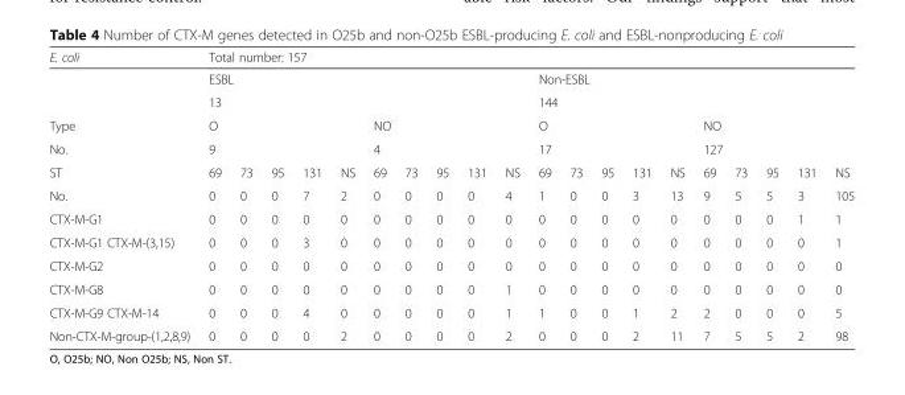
<table><thead><tr><td>E. coli</td><td colspan="10">Total number: 157</td><td></td><td></td><td></td><td></td><td></td><td></td><td></td><td></td><td></td><td></td></tr></thead><tbody><tr><td></td><td colspan="10">ESBL</td><td colspan="10">Non-ESBL</td></tr><tr><td></td><td colspan="10">13</td><td colspan="10">144</td></tr><tr><td>Type</td><td colspan="5">O</td><td colspan="5">NO</td><td colspan="5">O</td><td colspan="5">NO</td></tr><tr><td>No.</td><td colspan="5">9</td><td colspan="5">4</td><td colspan="5">17</td><td colspan="5">127</td></tr><tr><td>ST</td><td>69</td><td>73</td><td>95</td><td>131</td><td>NS</td><td>69</td><td>73</td><td>95</td><td>131</td><td>NS</td><td>69</td><td>73</td><td>95</td><td>131</td><td>NS</td><td>69</td><td>73</td><td>95</td><td>131</td><td>NS</td></tr><tr><td>No.</td><td>0</td><td>0</td><td>0</td><td>7</td><td>2</td><td>0</td><td>0</td><td>0</td><td>0</td><td>4</td><td>1</td><td>0</td><td>0</td><td>3</td><td>13</td><td>9</td><td>5</td><td>5</td><td>3</td><td>105</td></tr><tr><td>CTX-M-G1</td><td>0</td><td>0</td><td>0</td><td>0</td><td>0</td><td>0</td><td>0</td><td>0</td><td>0</td><td>0</td><td>0</td><td>0</td><td>0</td><td>0</td><td>0</td><td>0</td><td>0</td><td>0</td><td>1</td><td>1</td></tr><tr><td>CTX-M-G1 CTX-M-(3,15)</td><td>0</td><td>0</td><td>0</td><td>3</td><td>0</td><td>0</td><td>0</td><td>0</td><td>0</td><td>0</td><td>0</td><td>0</td><td>0</td><td>0</td><td>0</td><td>0</td><td>0</td><td>0</td><td>0</td><td>1</td></tr><tr><td>CTX-M-G2</td><td>0</td><td>0</td><td>0</td><td>0</td><td>0</td><td>0</td><td>0</td><td>0</td><td>0</td><td>0</td><td>0</td><td>0</td><td>0</td><td>0</td><td>0</td><td>0</td><td>0</td><td>0</td><td>0</td><td>0</td></tr><tr><td>CTX-M-G8</td><td>0</td><td>0</td><td>0</td><td>0</td><td>0</td><td>0</td><td>0</td><td>0</td><td>0</td><td>1</td><td>0</td><td>0</td><td>0</td><td>0</td><td>0</td><td>0</td><td>0</td><td>0</td><td>0</td><td>0</td></tr><tr><td>CTX-M-G9 CTX-M-14</td><td>0</td><td>0</td><td>0</td><td>4</td><td>0</td><td>0</td><td>0</td><td>0</td><td>0</td><td>1</td><td>1</td><td>0</td><td>0</td><td>1</td><td>2</td><td>2</td><td>0</td><td>0</td><td>0</td><td>5</td></tr><tr><td>Non-CTX-M-group-(1,2,8,9)</td><td>0</td><td>0</td><td>0</td><td>0</td><td>2</td><td>0</td><td>0</td><td>0</td><td>0</td><td>2</td><td>0</td><td>0</td><td>0</td><td>2</td><td>11</td><td>7</td><td>5</td><td>5</td><td>2</td><td>98</td></tr></tbody></table>